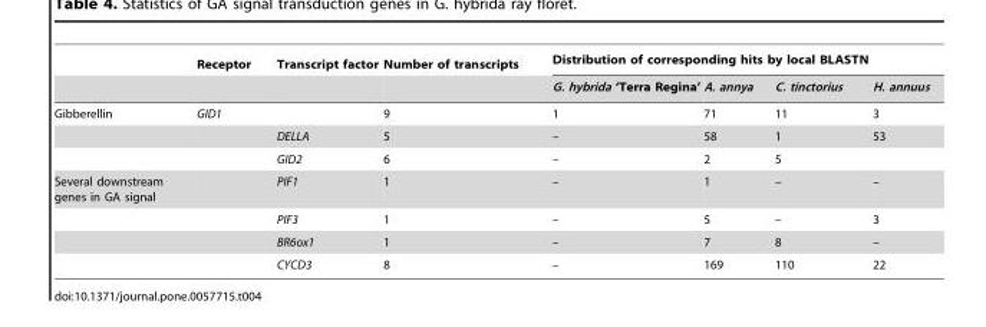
<table><thead><tr><td rowspan="2"></td><td rowspan="2">Receptor</td><td rowspan="2">Transcript factor</td><td rowspan="2">Number of transcripts</td><td colspan="4">Distribution of corresponding hits by local BLASTN</td></tr><tr><td>G. hybrida ‘Terra Regina’</td><td>A. annya</td><td>C. tinctorius</td><td>H. annuus</td></tr></thead><tbody><tr><td rowspan="3">Gibberellin</td><td>GID1</td><td></td><td>9</td><td>1</td><td>71</td><td>11</td><td>3</td></tr><tr><td></td><td>DELLA</td><td>5</td><td>–</td><td>58</td><td>1</td><td>53</td></tr><tr><td></td><td>GID2</td><td>6</td><td>–</td><td>2</td><td>5</td><td></td></tr><tr><td rowspan="4">Several downstream genes in GA signal</td><td></td><td>PIF1</td><td>1</td><td>–</td><td>1</td><td>–</td><td>–</td></tr><tr><td></td><td>PIF3</td><td>1</td><td>–</td><td>5</td><td>–</td><td>3</td></tr><tr><td></td><td>BR6ox1</td><td>1</td><td>–</td><td>7</td><td>8</td><td>–</td></tr><tr><td></td><td>CYCD3</td><td>8</td><td>–</td><td>169</td><td>110</td><td>22</td></tr></tbody></table>